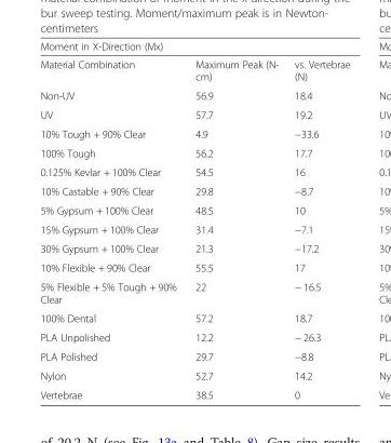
<table><thead><tr><td colspan="3">Moment in X-Direction (Mx)</td></tr><tr><td>Material Combination</td><td>Maximum Peak (N- cm)</td><td>vs. Vertebrae (N)</td></tr></thead><tbody><tr><td>Non-UV</td><td>56.9</td><td>18.4</td></tr><tr><td>UV</td><td>57.7</td><td>19.2</td></tr><tr><td>10% Tough + 90% Clear</td><td>4.9</td><td>−33.6</td></tr><tr><td>100% Tough</td><td>56.2</td><td>17.7</td></tr><tr><td>0.125% Kevlar + 100% Clear</td><td>54.5</td><td>16</td></tr><tr><td>10% Castable + 90% Clear</td><td>29.8</td><td>−8.7</td></tr><tr><td>5% Gypsum + 100% Clear</td><td>48.5</td><td>10</td></tr><tr><td>15% Gypsum + 100% Clear</td><td>31.4</td><td>−7.1</td></tr><tr><td>30% Gypsum + 100% Clear</td><td>21.3</td><td>−17.2</td></tr><tr><td>10% Flexible + 90% Clear</td><td>55.5</td><td>17</td></tr><tr><td>5% Flexible + 5% Tough + 90% Clear</td><td>22</td><td>− 16.5</td></tr><tr><td>100% Dental</td><td>57.2</td><td>18.7</td></tr><tr><td>PLA Unpolished</td><td>12.2</td><td>− 26.3</td></tr><tr><td>PLA Polished</td><td>29.7</td><td>−8.8</td></tr><tr><td>Nylon</td><td>52.7</td><td>14.2</td></tr><tr><td>Vertebrae</td><td>38.5</td><td>0</td></tr></tbody></table>